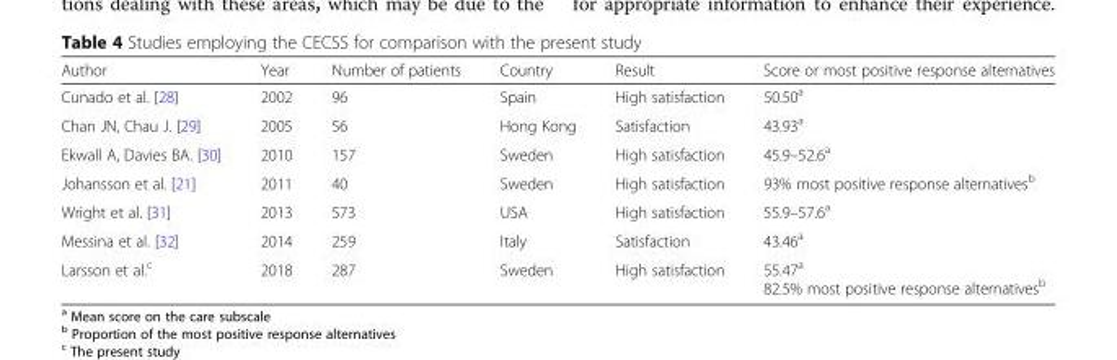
<table><thead><tr><td>Author</td><td>Year</td><td>Number of patients</td><td>Country</td><td>Result</td><td>Score or most positive response alternatives</td></tr></thead><tbody><tr><td>Cunado et al. [28]</td><td>2002</td><td>96</td><td>Spain</td><td>High satisfaction</td><td>50.50<sup>a</sup></td></tr><tr><td>Chan JN, Chau J. [29]</td><td>2005</td><td>56</td><td>Hong Kong</td><td>Satisfaction</td><td>43.93<sup>a</sup></td></tr><tr><td>Ekwall A, Davies BA. [30]</td><td>2010</td><td>157</td><td>Sweden</td><td>High satisfaction</td><td>45.9–52.6<sup>a</sup></td></tr><tr><td>Johansson et al. [21]</td><td>2011</td><td>40</td><td>Sweden</td><td>High satisfaction</td><td>93% most positive response alternatives<sup>b</sup></td></tr><tr><td>Wright et al. [31]</td><td>2013</td><td>573</td><td>USA</td><td>High satisfaction</td><td>55.9–57.6<sup>a</sup></td></tr><tr><td>Messina et al. [32]</td><td>2014</td><td>259</td><td>Italy</td><td>Satisfaction</td><td>43.46<sup>a</sup></td></tr><tr><td>Larsson et al.<sup>c</sup></td><td>2018</td><td>287</td><td>Sweden</td><td>High satisfaction</td><td>55.47<sup>a</sup> 82.5% most positive response alternatives<sup>b</sup></td></tr></tbody></table>